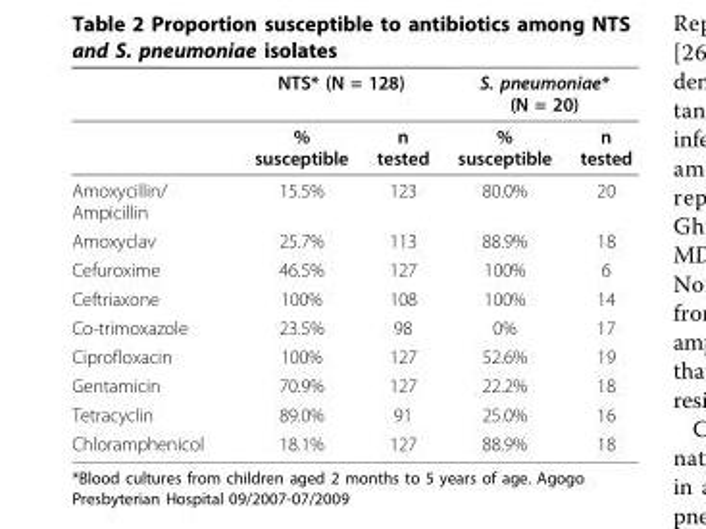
<table><thead><tr><td rowspan="2"></td><td colspan="2">NTS* (N = 128)</td><td colspan="2">S. pneumoniae* (N = 20)</td></tr><tr><td>% susceptible</td><td>n tested</td><td>% susceptible</td><td>n tested</td></tr></thead><tbody><tr><td>Amoxycillin/ Ampicillin</td><td>15.5%</td><td>123</td><td>80.0%</td><td>20</td></tr><tr><td>Amoxyclav</td><td>25.7%</td><td>113</td><td>88.9%</td><td>18</td></tr><tr><td>Cefuroxime</td><td>46.5%</td><td>127</td><td>100%</td><td>6</td></tr><tr><td>Ceftriaxone</td><td>100%</td><td>108</td><td>100%</td><td>14</td></tr><tr><td>Co-trimoxazole</td><td>23.5%</td><td>98</td><td>0%</td><td>17</td></tr><tr><td>Ciprofloxacin</td><td>100%</td><td>127</td><td>52.6%</td><td>19</td></tr><tr><td>Gentamicin</td><td>70.9%</td><td>127</td><td>22.2%</td><td>18</td></tr><tr><td>Tetracyclin</td><td>89.0%</td><td>91</td><td>25.0%</td><td>16</td></tr><tr><td>Chloramphenicol</td><td>18.1%</td><td>127</td><td>88.9%</td><td>18</td></tr></tbody></table>